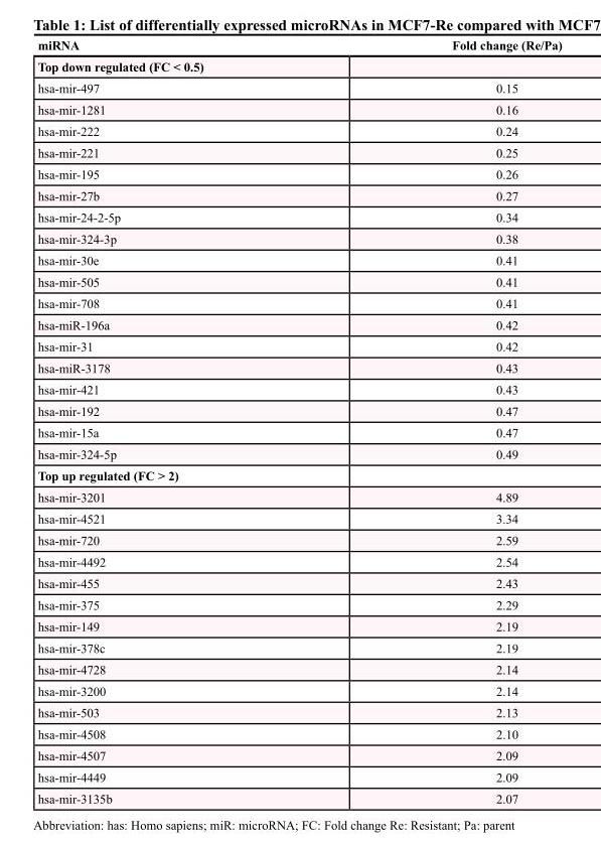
<table><thead><tr><td>miRNA</td><td>Fold change (Re/Pa)</td></tr></thead><tbody><tr><td colspan="2">Top down regulated (FC &lt; 0.5)</td></tr><tr><td>hsa-mir-497</td><td>0.15</td></tr><tr><td>hsa-mir-1281</td><td>0.16</td></tr><tr><td>hsa-mir-222</td><td>0.24</td></tr><tr><td>hsa-mir-221</td><td>0.25</td></tr><tr><td>hsa-mir-195</td><td>0.26</td></tr><tr><td>hsa-mir-27b</td><td>0.27</td></tr><tr><td>hsa-mir-24-2-5p</td><td>0.34</td></tr><tr><td>hsa-mir-324-3p</td><td>0.38</td></tr><tr><td>hsa-mir-30e</td><td>0.41</td></tr><tr><td>hsa-mir-505</td><td>0.41</td></tr><tr><td>hsa-mir-708</td><td>0.41</td></tr><tr><td>hsa-miR-196a</td><td>0.42</td></tr><tr><td>hsa-mir-31</td><td>0.42</td></tr><tr><td>hsa-miR-3178</td><td>0.43</td></tr><tr><td>hsa-mir-421</td><td>0.43</td></tr><tr><td>hsa-mir-192</td><td>0.47</td></tr><tr><td>hsa-mir-15a</td><td>0.47</td></tr><tr><td>hsa-mir-324-5p</td><td>0.49</td></tr><tr><td colspan="2">Top up regulated (FC &gt; 2)</td></tr><tr><td>hsa-mir-3201</td><td>4.89</td></tr><tr><td>hsa-mir-4521</td><td>3.34</td></tr><tr><td>hsa-mir-720</td><td>2.59</td></tr><tr><td>hsa-mir-4492</td><td>2.54</td></tr><tr><td>hsa-mir-455</td><td>2.43</td></tr><tr><td>hsa-mir-375</td><td>2.29</td></tr><tr><td>hsa-mir-149</td><td>2.19</td></tr><tr><td>hsa-mir-378c</td><td>2.19</td></tr><tr><td>hsa-mir-4728</td><td>2.14</td></tr><tr><td>hsa-mir-3200</td><td>2.14</td></tr><tr><td>hsa-mir-503</td><td>2.13</td></tr><tr><td>hsa-mir-4508</td><td>2.10</td></tr><tr><td>hsa-mir-4507</td><td>2.09</td></tr><tr><td>hsa-mir-4449</td><td>2.09</td></tr><tr><td>hsa-mir-3135b</td><td>2.07</td></tr></tbody></table>